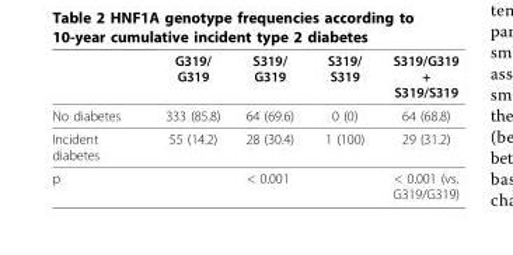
<table><thead><tr><td></td><td>G319/ G319</td><td>S319/ G319</td><td>S319/ S319</td><td>S319/G319 + S319/S319</td></tr></thead><tbody><tr><td>No diabetes</td><td>333 (85.8)</td><td>64 (69.6)</td><td>0 (0)</td><td>64 (68.8)</td></tr><tr><td>Incident diabetes</td><td>55 (14.2)</td><td>28 (30.4)</td><td>1 (100)</td><td>29 (31.2)</td></tr><tr><td>p</td><td colspan="3">&lt; 0.001</td><td>&lt; 0.001 (vs. G319/G319)</td></tr></tbody></table>